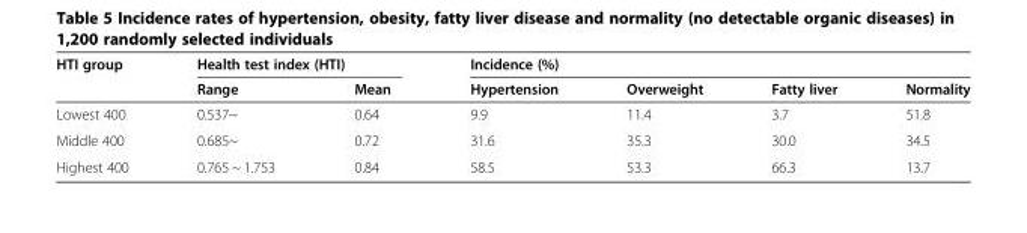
<table><thead><tr><td rowspan="2">HTI group</td><td colspan="2">Health test index (HTI)</td><td colspan="4">Incidence (%)</td></tr><tr><td>Range</td><td>Mean</td><td>Hypertension</td><td>Overweight</td><td>Fatty liver</td><td>Normality</td></tr></thead><tbody><tr><td>Lowest 400</td><td>0.537~</td><td>0.64</td><td>9.9</td><td>11.4</td><td>3.7</td><td>51.8</td></tr><tr><td>Middle 400</td><td>0.685~</td><td>0.72</td><td>31.6</td><td>35.3</td><td>30.0</td><td>34.5</td></tr><tr><td>Highest 400</td><td>0.765 ~ 1.753</td><td>0.84</td><td>58.5</td><td>53.3</td><td>66.3</td><td>13.7</td></tr></tbody></table>